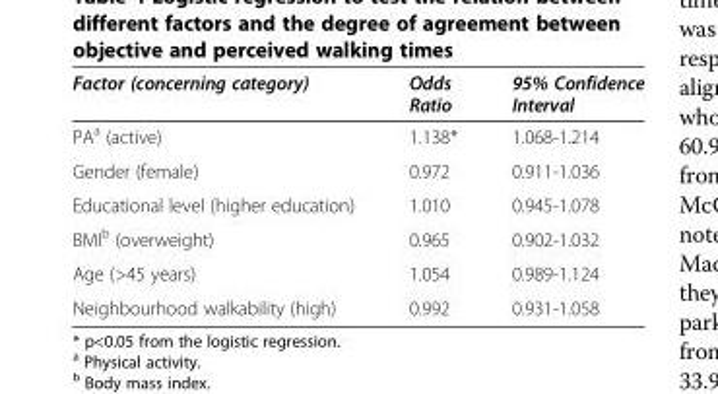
<table><thead><tr><td>Factor (concerning category)</td><td>Odds Ratio</td><td>95% Confidence Interval</td></tr></thead><tbody><tr><td>PA<sup>a</sup> (active)</td><td>1.138*</td><td>1.068-1.214</td></tr><tr><td>Gender (female)</td><td>0.972</td><td>0.911-1.036</td></tr><tr><td>Educational level (higher education)</td><td>1.010</td><td>0.945-1.078</td></tr><tr><td>BMI<sup>b</sup> (overweight)</td><td>0.965</td><td>0.902-1.032</td></tr><tr><td>Age (&gt;45 years)</td><td>1.054</td><td>0.989-1.124</td></tr><tr><td>Neighbourhood walkability (high)</td><td>0.992</td><td>0.931-1.058</td></tr></tbody></table>